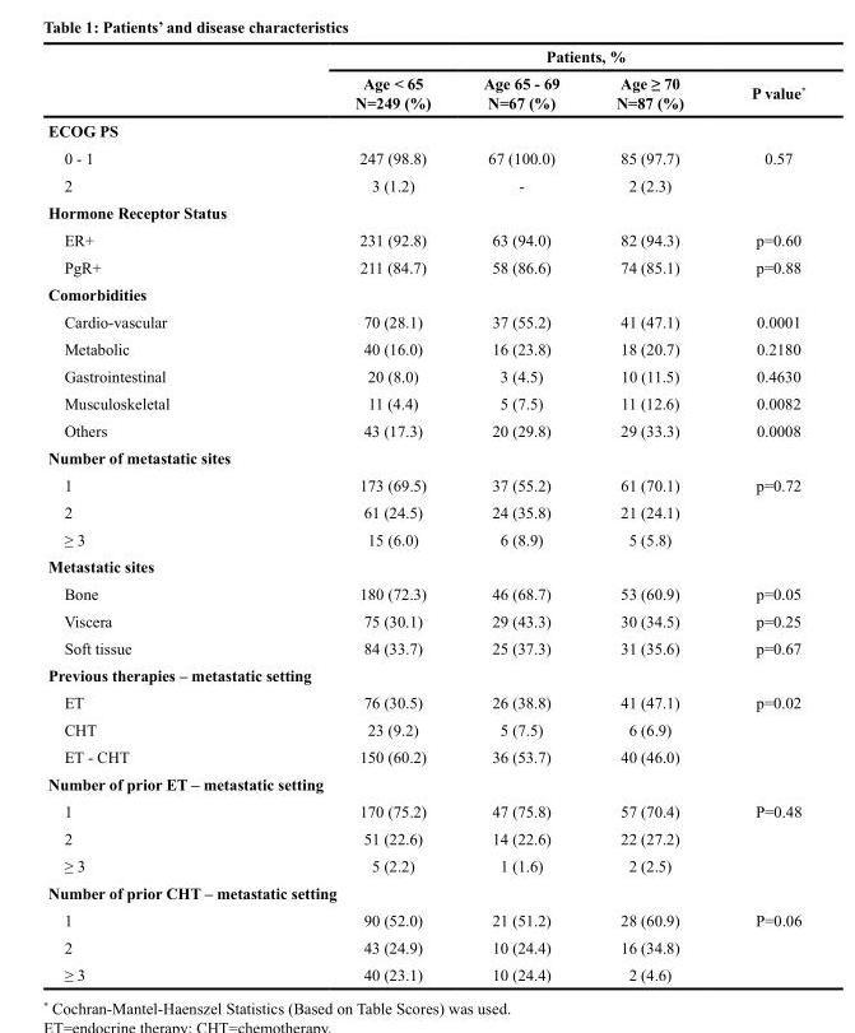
<table><thead><tr><td rowspan="2"></td><td colspan="4">Patients, %</td></tr><tr><td>Age &lt; 65 N=249 (%)</td><td>Age 65 - 69 N=67 (%)</td><td>Age ≥ 70 N=87 (%)</td><td>P value*</td></tr></thead><tbody><tr><td colspan="5">ECOG PS</td></tr><tr><td>0 - 1</td><td>247 (98.8)</td><td>67 (100.0)</td><td>85 (97.7)</td><td>0.57</td></tr><tr><td>2</td><td>3 (1.2)</td><td>-</td><td>2 (2.3)</td><td></td></tr><tr><td colspan="5">Hormone Receptor Status</td></tr><tr><td>ER+</td><td>231 (92.8)</td><td>63 (94.0)</td><td>82 (94.3)</td><td>p=0.60</td></tr><tr><td>PgR+</td><td>211 (84.7)</td><td>58 (86.6)</td><td>74 (85.1)</td><td>p=0.88</td></tr><tr><td colspan="5">Comorbidities</td></tr><tr><td>Cardio-vascular</td><td>70 (28.1)</td><td>37 (55.2)</td><td>41 (47.1)</td><td>0.0001</td></tr><tr><td>Metabolic</td><td>40 (16.0)</td><td>16 (23.8)</td><td>18 (20.7)</td><td>0.2180</td></tr><tr><td>Gastrointestinal</td><td>20 (8.0)</td><td>3 (4.5)</td><td>10 (11.5)</td><td>0.4630</td></tr><tr><td>Musculoskeletal</td><td>11 (4.4)</td><td>5 (7.5)</td><td>11 (12.6)</td><td>0.0082</td></tr><tr><td>Others</td><td>43 (17.3)</td><td>20 (29.8)</td><td>29 (33.3)</td><td>0.0008</td></tr><tr><td colspan="5">Number of metastatic sites</td></tr><tr><td>1</td><td>173 (69.5)</td><td>37 (55.2)</td><td>61 (70.1)</td><td>p=0.72</td></tr><tr><td>2</td><td>61 (24.5)</td><td>24 (35.8)</td><td>21 (24.1)</td><td></td></tr><tr><td>≥ 3</td><td>15 (6.0)</td><td>6 (8.9)</td><td>5 (5.8)</td><td></td></tr><tr><td colspan="5">Metastatic sites</td></tr><tr><td>Bone</td><td>180 (72.3)</td><td>46 (68.7)</td><td>53 (60.9)</td><td>p=0.05</td></tr><tr><td>Viscera</td><td>75 (30.1)</td><td>29 (43.3)</td><td>30 (34.5)</td><td>p=0.25</td></tr><tr><td>Soft tissue</td><td>84 (33.7)</td><td>25 (37.3)</td><td>31 (35.6)</td><td>p=0.67</td></tr><tr><td colspan="5">Previous therapies – metastatic setting</td></tr><tr><td>ET</td><td>76 (30.5)</td><td>26 (38.8)</td><td>41 (47.1)</td><td>p=0.02</td></tr><tr><td>CHT</td><td>23 (9.2)</td><td>5 (7.5)</td><td>6 (6.9)</td><td></td></tr><tr><td>ET - CHT</td><td>150 (60.2)</td><td>36 (53.7)</td><td>40 (46.0)</td><td></td></tr><tr><td colspan="5">Number of prior ET – metastatic setting</td></tr><tr><td>1</td><td>170 (75.2)</td><td>47 (75.8)</td><td>57 (70.4)</td><td>P=0.48</td></tr><tr><td>2</td><td>51 (22.6)</td><td>14 (22.6)</td><td>22 (27.2)</td><td></td></tr><tr><td>≥ 3</td><td>5 (2.2)</td><td>1 (1.6)</td><td>2 (2.5)</td><td></td></tr><tr><td colspan="5">Number of prior CHT – metastatic setting</td></tr><tr><td>1</td><td>90 (52.0)</td><td>21 (51.2)</td><td>28 (60.9)</td><td>P=0.06</td></tr><tr><td>2</td><td>43 (24.9)</td><td>10 (24.4)</td><td>16 (34.8)</td><td></td></tr><tr><td>≥ 3</td><td>40 (23.1)</td><td>10 (24.4)</td><td>2 (4.6)</td><td></td></tr></tbody></table>